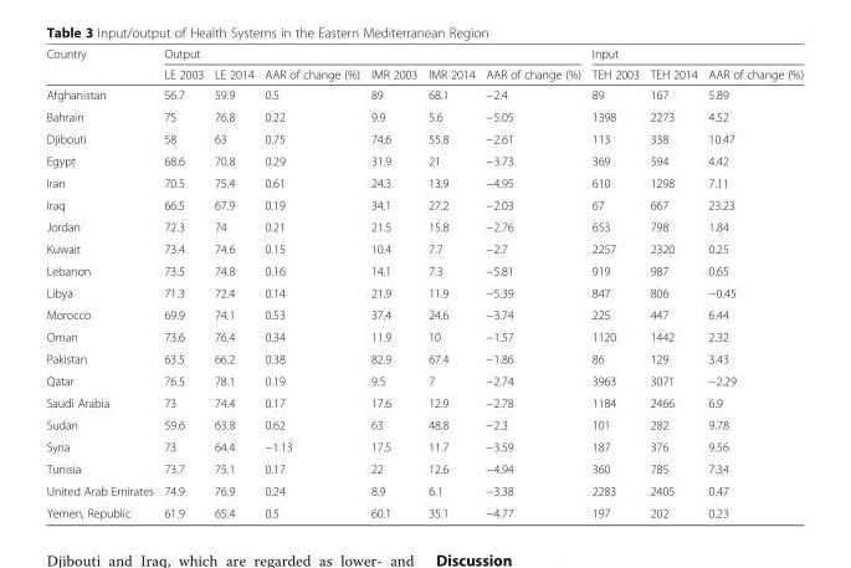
<table><thead><tr><td rowspan="2">Country</td><td colspan="6">Output</td><td colspan="3">Input</td></tr><tr><td>LE 2003</td><td>LE 2014</td><td>AAR of change (%)</td><td>IMR 2003</td><td>IMR 2014</td><td>AAR of change (%)</td><td>TEH 2003</td><td>TEH 2014</td><td>AAR of change (%)</td></tr></thead><tbody><tr><td>Afghanistan</td><td>56.7</td><td>59.9</td><td>0.5</td><td>89</td><td>68.1</td><td>−2.4</td><td>89</td><td>167</td><td>5.89</td></tr><tr><td>Bahrain</td><td>75</td><td>76.8</td><td>0.22</td><td>9.9</td><td>5.6</td><td>−5.05</td><td>1398</td><td>2273</td><td>4.52</td></tr><tr><td>Djibouti</td><td>58</td><td>63</td><td>0.75</td><td>74.6</td><td>55.8</td><td>−2.61</td><td>113</td><td>338</td><td>10.47</td></tr><tr><td>Egypt</td><td>68.6</td><td>70.8</td><td>0.29</td><td>31.9</td><td>21</td><td>−3.73</td><td>369</td><td>594</td><td>4.42</td></tr><tr><td>Iran</td><td>70.5</td><td>75.4</td><td>0.61</td><td>24.3</td><td>13.9</td><td>−4.95</td><td>610</td><td>1298</td><td>7.11</td></tr><tr><td>Iraq</td><td>66.5</td><td>67.9</td><td>0.19</td><td>34.1</td><td>27.2</td><td>−2.03</td><td>67</td><td>667</td><td>23.23</td></tr><tr><td>Jordan</td><td>72.3</td><td>74</td><td>0.21</td><td>21.5</td><td>15.8</td><td>−2.76</td><td>653</td><td>798</td><td>1.84</td></tr><tr><td>Kuwait</td><td>73.4</td><td>74.6</td><td>0.15</td><td>10.4</td><td>7.7</td><td>−2.7</td><td>2257</td><td>2320</td><td>0.25</td></tr><tr><td>Lebanon</td><td>73.5</td><td>74.8</td><td>0.16</td><td>14.1</td><td>7.3</td><td>−5.81</td><td>919</td><td>987</td><td>0.65</td></tr><tr><td>Libya</td><td>71.3</td><td>72.4</td><td>0.14</td><td>21.9</td><td>11.9</td><td>−5.39</td><td>847</td><td>806</td><td>−0.45</td></tr><tr><td>Morocco</td><td>69.9</td><td>74.1</td><td>0.53</td><td>37.4</td><td>24.6</td><td>−3.74</td><td>225</td><td>447</td><td>6.44</td></tr><tr><td>Oman</td><td>73.6</td><td>76.4</td><td>0.34</td><td>11.9</td><td>10</td><td>−1.57</td><td>1120</td><td>1442</td><td>2.32</td></tr><tr><td>Pakistan</td><td>63.5</td><td>66.2</td><td>0.38</td><td>82.9</td><td>67.4</td><td>−1.86</td><td>86</td><td>129</td><td>3.43</td></tr><tr><td>Qatar</td><td>76.5</td><td>78.1</td><td>0.19</td><td>9.5</td><td>7</td><td>−2.74</td><td>3963</td><td>3071</td><td>−2.29</td></tr><tr><td>Saudi Arabia</td><td>73</td><td>74.4</td><td>0.17</td><td>17.6</td><td>12.9</td><td>−2.78</td><td>1184</td><td>2466</td><td>6.9</td></tr><tr><td>Sudan</td><td>59.6</td><td>63.8</td><td>0.62</td><td>63</td><td>48.8</td><td>−2.3</td><td>101</td><td>282</td><td>9.78</td></tr><tr><td>Syria</td><td>73</td><td>64.4</td><td>−1.13</td><td>17.5</td><td>11.7</td><td>−3.59</td><td>187</td><td>376</td><td>9.56</td></tr><tr><td>Tunisia</td><td>73.7</td><td>75.1</td><td>0.17</td><td>22</td><td>12.6</td><td>−4.94</td><td>360</td><td>785</td><td>7.34</td></tr><tr><td>United Arab Emirates</td><td>74.9</td><td>76.9</td><td>0.24</td><td>8.9</td><td>6.1</td><td>−3.38</td><td>2283</td><td>2405</td><td>0.47</td></tr><tr><td>Yemen, Republic</td><td>61.9</td><td>65.4</td><td>0.5</td><td>60.1</td><td>35.1</td><td>−4.77</td><td>197</td><td>202</td><td>0.23</td></tr></tbody></table>